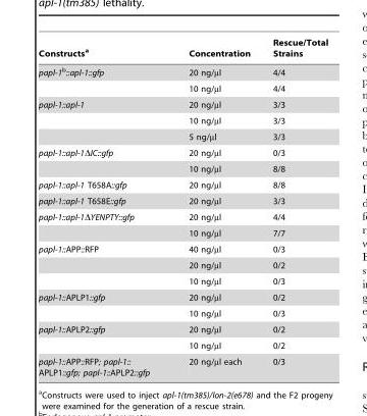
<table><thead><tr><td>Constructs<sup>a</sup></td><td>Concentration</td><td>Rescue/Total Strains</td></tr></thead><tbody><tr><td rowspan="2">papl-1b::apl-1::gfp</td><td>20 ng/µl</td><td>4/4</td></tr><tr><td>10 ng/µl</td><td>4/4</td></tr><tr><td rowspan="3">papl-1::apl-1</td><td>20 ng/µl</td><td>3/3</td></tr><tr><td>10 ng/µl</td><td>3/3</td></tr><tr><td>5 ng/µl</td><td>3/3</td></tr><tr><td rowspan="2">papl-1::apl-1ΔIC::gfp</td><td>20 ng/µl</td><td>0/3</td></tr><tr><td>10 ng/µl</td><td>8/8</td></tr><tr><td>papl-1::apl-1 T658A::gfp</td><td>20 ng/µl</td><td>8/8</td></tr><tr><td>papl-1::apl-1 T658E::gfp</td><td>20 ng/µl</td><td>3/3</td></tr><tr><td rowspan="2">papl-1::apl-1ΔYENPTY::gfp</td><td>20 ng/µl</td><td>4/4</td></tr><tr><td>10 ng/µl</td><td>7/7</td></tr><tr><td rowspan="3">papl-1::APP::RFP</td><td>40 ng/µl</td><td>0/3</td></tr><tr><td>20 ng/µl</td><td>0/2</td></tr><tr><td>10 ng/µl</td><td>0/3</td></tr><tr><td rowspan="2">papl-1::APLP1::gfp</td><td>20 ng/µl</td><td>0/2</td></tr><tr><td>10 ng/µl</td><td>0/3</td></tr><tr><td rowspan="2">papl-1::APLP2::gfp</td><td>20 ng/µl</td><td>0/2</td></tr><tr><td>10 ng/µl</td><td>0/2</td></tr><tr><td>papl-1::APP::RFP; papl-1:: APLP1::gfp; papl-1::APLP2::gfp</td><td>20 ng/µl each</td><td>0/3</td></tr></tbody></table>